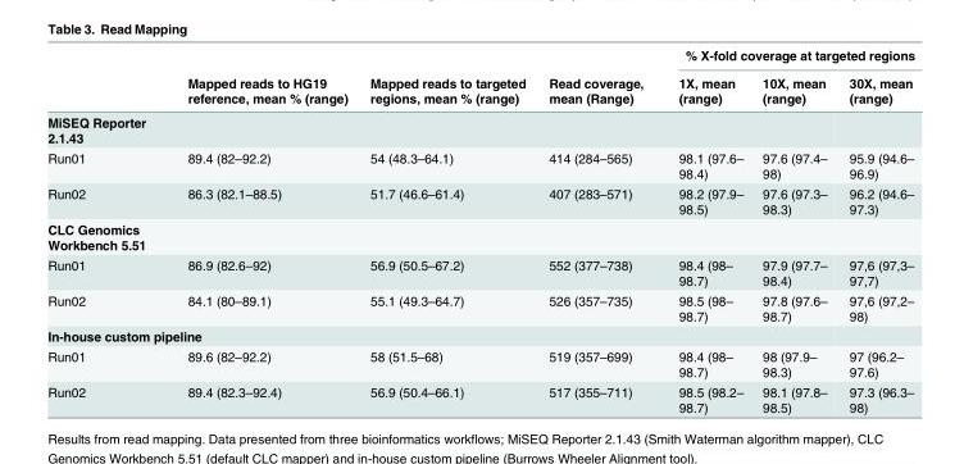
<table><thead><tr><td rowspan="2"></td><td rowspan="2">Mapped reads to HG19 reference, mean % (range)</td><td rowspan="2">Mapped reads to targeted regions, mean % (range)</td><td rowspan="2">Read coverage, mean (Range)</td><td colspan="3">% X-fold coverage at targeted regions</td></tr><tr><td>1X, mean (range)</td><td>10X, mean (range)</td><td>30X, mean (range)</td></tr></thead><tbody><tr><td colspan="7">MiSEQ Reporter 2.1.43</td></tr><tr><td>Run01</td><td>89.4 (82–92.2)</td><td>54 (48.3–64.1)</td><td>414 (284–565)</td><td>98.1 (97.6– 98.4)</td><td>97.6 (97.4– 98)</td><td>95.9 (94.6– 96.9)</td></tr><tr><td>Run02</td><td>86.3 (82.1–88.5)</td><td>51.7 (46.6–61.4)</td><td>407 (283–571)</td><td>98.2 (97.9– 98.5)</td><td>97.6 (97.3– 98.3)</td><td>96.2 (94.6– 97.3)</td></tr><tr><td colspan="7">CLC Genomics Workbench 5.51</td></tr><tr><td>Run01</td><td>86.9 (82.6–92)</td><td>56.9 (50.5–67.2)</td><td>552 (377–738)</td><td>98.4 (98– 98.7)</td><td>97.9 (97.7– 98.4)</td><td>97,6 (97,3– 97,7)</td></tr><tr><td>Run02</td><td>84.1 (80–89.1)</td><td>55.1 (49.3–64.7)</td><td>526 (357–735)</td><td>98.5 (98– 98.7)</td><td>97.8 (97.6– 98.7)</td><td>97,6 (97,2– 98)</td></tr><tr><td colspan="7">In-house custom pipeline</td></tr><tr><td>Run01</td><td>89.6 (82–92.2)</td><td>58 (51.5–68)</td><td>519 (357–699)</td><td>98.4 (98– 98.7)</td><td>98 (97.9– 98.3)</td><td>97 (96.2– 97.6)</td></tr><tr><td>Run02</td><td>89.4 (82.3–92.4)</td><td>56.9 (50.4–66.1)</td><td>517 (355–711)</td><td>98.5 (98.2– 98.7)</td><td>98.1 (97.8– 98.5)</td><td>97.3 (96.3– 98)</td></tr></tbody></table>